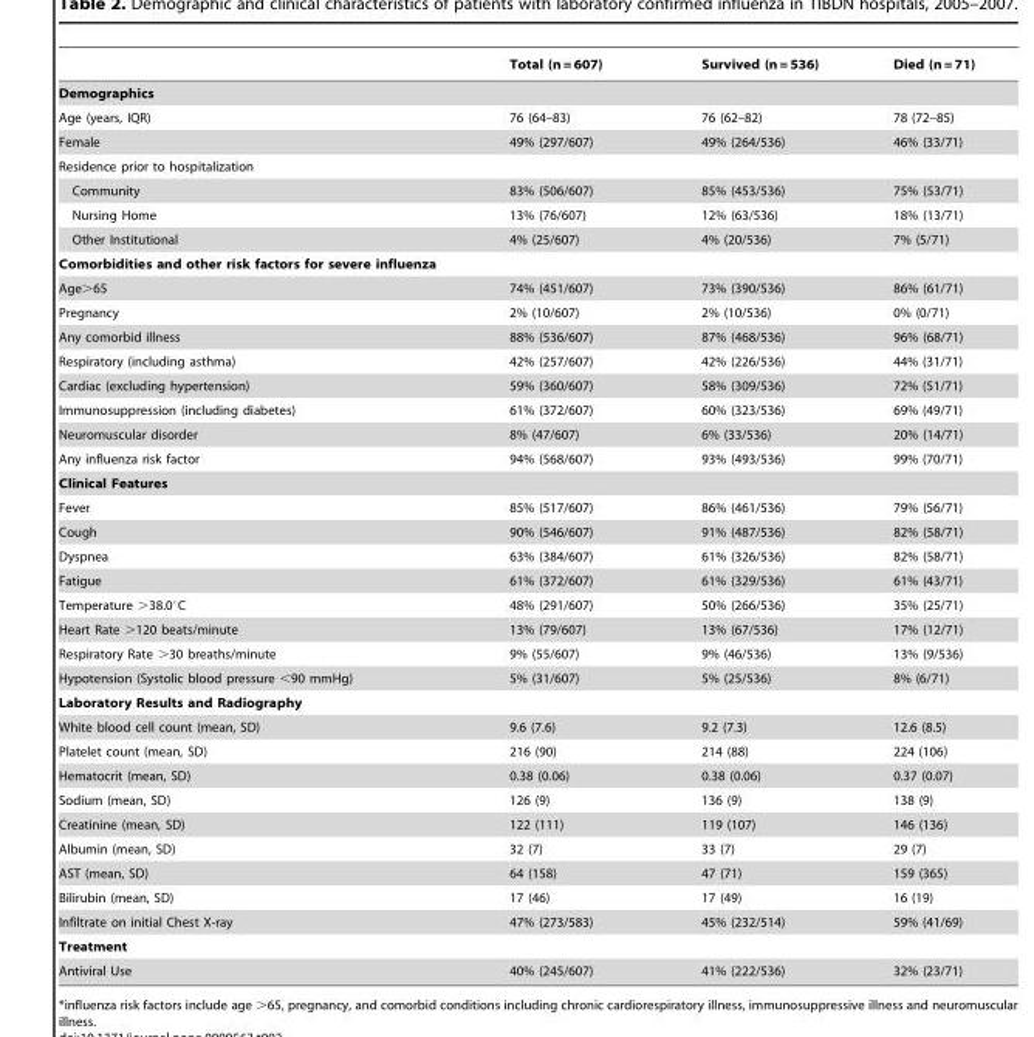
<table><thead><tr><td></td><td>Total (n = 607)</td><td>Survived (n = 536)</td><td>Died (n = 71)</td></tr></thead><tbody><tr><td colspan="4">Demographics</td></tr><tr><td>Age (years, IQR)</td><td>76 (64–83)</td><td>76 (62–82)</td><td>78 (72–85)</td></tr><tr><td>Female</td><td>49% (297/607)</td><td>49% (264/536)</td><td>46% (33/71)</td></tr><tr><td colspan="4">Residence prior to hospitalization</td></tr><tr><td>Community</td><td>83% (506/607)</td><td>85% (453/536)</td><td>75% (53/71)</td></tr><tr><td>Nursing Home</td><td>13% (76/607)</td><td>12% (63/536)</td><td>18% (13/71)</td></tr><tr><td>Other Institutional</td><td>4% (25/607)</td><td>4% (20/536)</td><td>7% (5/71)</td></tr><tr><td colspan="4">Comorbidities and other risk factors for severe influenza</td></tr><tr><td>Age&gt;65</td><td>74% (451/607)</td><td>73% (390/536)</td><td>86% (61/71)</td></tr><tr><td>Pregnancy</td><td>2% (10/607)</td><td>2% (10/536)</td><td>0% (0/71)</td></tr><tr><td>Any comorbid illness</td><td>88% (536/607)</td><td>87% (468/536)</td><td>96% (68/71)</td></tr><tr><td>Respiratory (including asthma)</td><td>42% (257/607)</td><td>42% (226/536)</td><td>44% (31/71)</td></tr><tr><td>Cardiac (excluding hypertension)</td><td>59% (360/607)</td><td>58% (309/536)</td><td>72% (51/71)</td></tr><tr><td>Immunosuppression (including diabetes)</td><td>61% (372/607)</td><td>60% (323/536)</td><td>69% (49/71)</td></tr><tr><td>Neuromuscular disorder</td><td>8% (47/607)</td><td>6% (33/536)</td><td>20% (14/71)</td></tr><tr><td>Any influenza risk factor</td><td>94% (568/607)</td><td>93% (493/536)</td><td>99% (70/71)</td></tr><tr><td colspan="4">Clinical Features</td></tr><tr><td>Fever</td><td>85% (517/607)</td><td>86% (461/536)</td><td>79% (56/71)</td></tr><tr><td>Cough</td><td>90% (546/607)</td><td>91% (487/536)</td><td>82% (58/71)</td></tr><tr><td>Dyspnea</td><td>63% (384/607)</td><td>61% (326/536)</td><td>82% (58/71)</td></tr><tr><td>Fatigue</td><td>61% (372/607)</td><td>61% (329/536)</td><td>61% (43/71)</td></tr><tr><td>Temperature &gt;38.0°C</td><td>48% (291/607)</td><td>50% (266/536)</td><td>35% (25/71)</td></tr><tr><td>Heart Rate &gt;120 beats/minute</td><td>13% (79/607)</td><td>13% (67/536)</td><td>17% (12/71)</td></tr><tr><td>Respiratory Rate &gt;30 breaths/minute</td><td>9% (55/607)</td><td>9% (46/536)</td><td>13% (9/536)</td></tr><tr><td>Hypotension (Systolic blood pressure &lt;90 mmHg)</td><td>5% (31/607)</td><td>5% (25/536)</td><td>8% (6/71)</td></tr><tr><td colspan="4">Laboratory Results and Radiography</td></tr><tr><td>White blood cell count (mean, SD)</td><td>9.6 (7.6)</td><td>9.2 (7.3)</td><td>12.6 (8.5)</td></tr><tr><td>Platelet count (mean, SD)</td><td>216 (90)</td><td>214 (88)</td><td>224 (106)</td></tr><tr><td>Hematocrit (mean, SD)</td><td>0.38 (0.06)</td><td>0.38 (0.06)</td><td>0.37 (0.07)</td></tr><tr><td>Sodium (mean, SD)</td><td>126 (9)</td><td>136 (9)</td><td>138 (9)</td></tr><tr><td>Creatinine (mean, SD)</td><td>122 (111)</td><td>119 (107)</td><td>146 (136)</td></tr><tr><td>Albumin (mean, SD)</td><td>32 (7)</td><td>33 (7)</td><td>29 (7)</td></tr><tr><td>AST (mean, SD)</td><td>64 (158)</td><td>47 (71)</td><td>159 (365)</td></tr><tr><td>Bilirubin (mean, SD)</td><td>17 (46)</td><td>17 (49)</td><td>16 (19)</td></tr><tr><td>Infiltrate on initial Chest X-ray</td><td>47% (273/583)</td><td>45% (232/514)</td><td>59% (41/69)</td></tr><tr><td colspan="4">Treatment</td></tr><tr><td>Antiviral Use</td><td>40% (245/607)</td><td>41% (222/536)</td><td>32% (23/71)</td></tr></tbody></table>